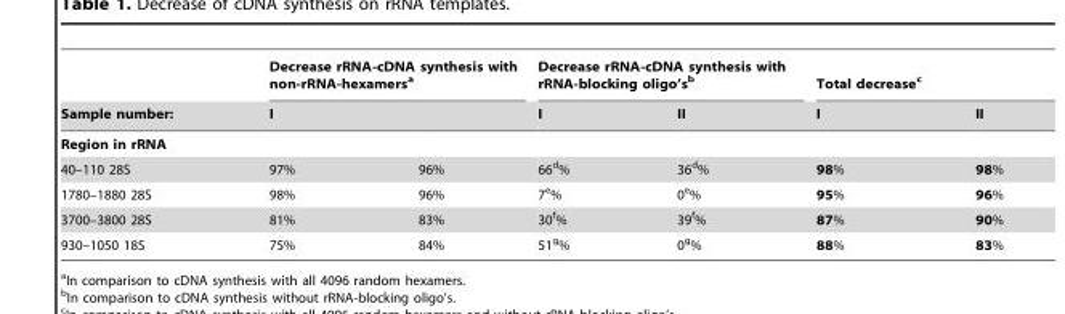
<table><thead><tr><td rowspan="2">Sample number:</td><td colspan="2">Decrease rRNA-cDNA synthesis with non-rRNA-hexamers<sup>a</sup></td><td colspan="2">Decrease rRNA-cDNA synthesis with rRNA-blocking oligo’s<sup>b</sup></td><td colspan="2">Total decrease<sup>c</sup></td></tr><tr><td>I</td><td></td><td>I</td><td>II</td><td>I</td><td>II</td></tr></thead><tbody><tr><td colspan="7">Region in rRNA</td></tr><tr><td>40–110 28S</td><td>97%</td><td>96%</td><td>66<sup>d</sup>%</td><td>36<sup>d</sup>%</td><td>98%</td><td>98%</td></tr><tr><td>1780–1880 28S</td><td>98%</td><td>96%</td><td>7<sup>e</sup>%</td><td>0<sup>e</sup>%</td><td>95%</td><td>96%</td></tr><tr><td>3700–3800 28S</td><td>81%</td><td>83%</td><td>30<sup>f</sup>%</td><td>39<sup>f</sup>%</td><td>87%</td><td>90%</td></tr><tr><td>930–1050 18S</td><td>75%</td><td>84%</td><td>51<sup>g</sup>%</td><td>0<sup>g</sup>%</td><td>88%</td><td>83%</td></tr></tbody></table>